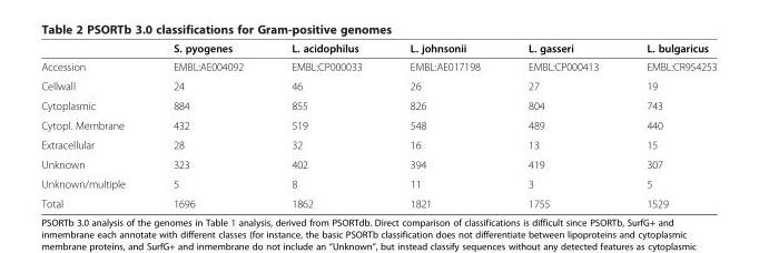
<table><thead><tr><td></td><td>S. pyogenes</td><td>L. acidophilus</td><td>L. johnsonii</td><td>L. gasseri</td><td>L. bulgaricus</td></tr></thead><tbody><tr><td>Accession</td><td>EMBL:AE004092</td><td>EMBL:CP000033</td><td>EMBL:AE017198</td><td>EMBL:CP000413</td><td>EMBL:CR954253</td></tr><tr><td>Cellwall</td><td>24</td><td>46</td><td>26</td><td>27</td><td>19</td></tr><tr><td>Cytoplasmic</td><td>884</td><td>855</td><td>826</td><td>804</td><td>743</td></tr><tr><td>Cytopl. Membrane</td><td>432</td><td>519</td><td>548</td><td>489</td><td>440</td></tr><tr><td>Extracellular</td><td>28</td><td>32</td><td>16</td><td>13</td><td>15</td></tr><tr><td>Unknown</td><td>323</td><td>402</td><td>394</td><td>419</td><td>307</td></tr><tr><td>Unknown/multiple</td><td>5</td><td>8</td><td>11</td><td>3</td><td>5</td></tr><tr><td>Total</td><td>1696</td><td>1862</td><td>1821</td><td>1755</td><td>1529</td></tr></tbody></table>